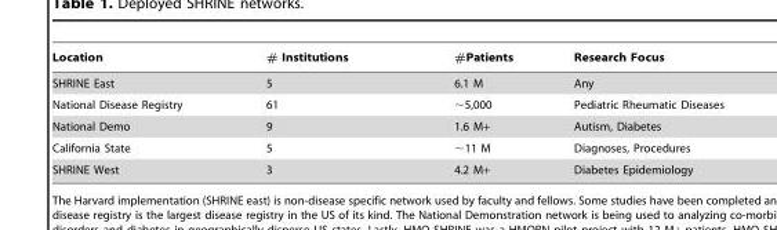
<table><thead><tr><td>Location</td><td># Institutions</td><td>#Patients</td><td>Research Focus</td></tr></thead><tbody><tr><td>SHRINE East</td><td>5</td><td>6.1 M</td><td>Any</td></tr><tr><td>National Disease Registry</td><td>61</td><td>∼5,000</td><td>Pediatric Rheumatic Diseases</td></tr><tr><td>National Demo</td><td>9</td><td>1.6 M+</td><td>Autism, Diabetes</td></tr><tr><td>California State</td><td>5</td><td>∼11 M</td><td>Diagnoses, Procedures</td></tr><tr><td>SHRINE West</td><td>3</td><td>4.2 M+</td><td>Diabetes Epidemiology</td></tr></tbody></table>